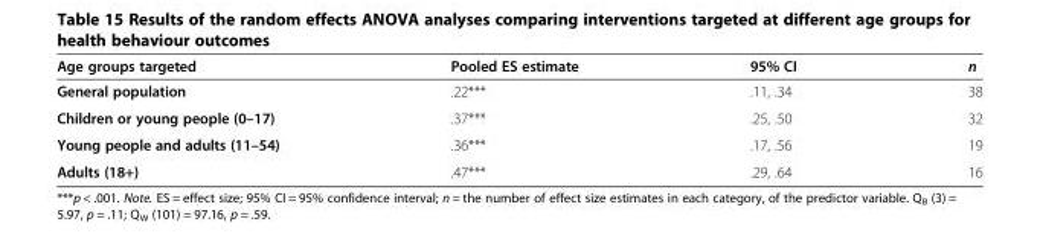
<table><thead><tr><td>Age groups targeted</td><td>Pooled ES estimate</td><td>95% CI</td><td>n</td></tr></thead><tbody><tr><td>General population</td><td>.22***</td><td>.11, .34</td><td>38</td></tr><tr><td>Children or young people (0–17)</td><td>.37***</td><td>.25, .50</td><td>32</td></tr><tr><td>Young people and adults (11–54)</td><td>.36***</td><td>.17, .56</td><td>19</td></tr><tr><td>Adults (18+)</td><td>.47***</td><td>.29, .64</td><td>16</td></tr></tbody></table>